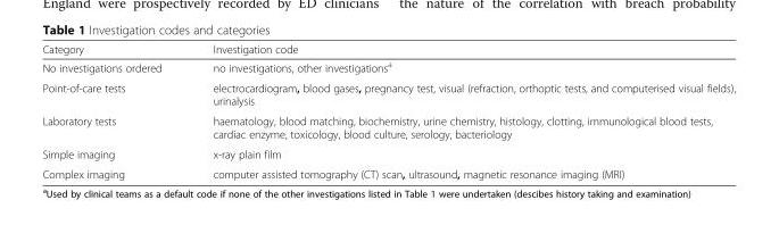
<table><thead><tr><td>Category</td><td>Investigation code</td></tr></thead><tbody><tr><td>No investigations ordered</td><td>no investigations, other investigations<sup>a</sup></td></tr><tr><td>Point-of-care tests</td><td>electrocardiogram, blood gases, pregnancy test, visual (refraction, orthoptic tests, and computerised visual fields), urinalysis</td></tr><tr><td>Laboratory tests</td><td>haematology, blood matching, biochemistry, urine chemistry, histology, clotting, immunological blood tests, cardiac enzyme, toxicology, blood culture, serology, bacteriology</td></tr><tr><td>Simple imaging</td><td>x-ray plain film</td></tr><tr><td>Complex imaging</td><td>computer assisted tomography (CT) scan, ultrasound, magnetic resonance imaging (MRI)</td></tr></tbody></table>